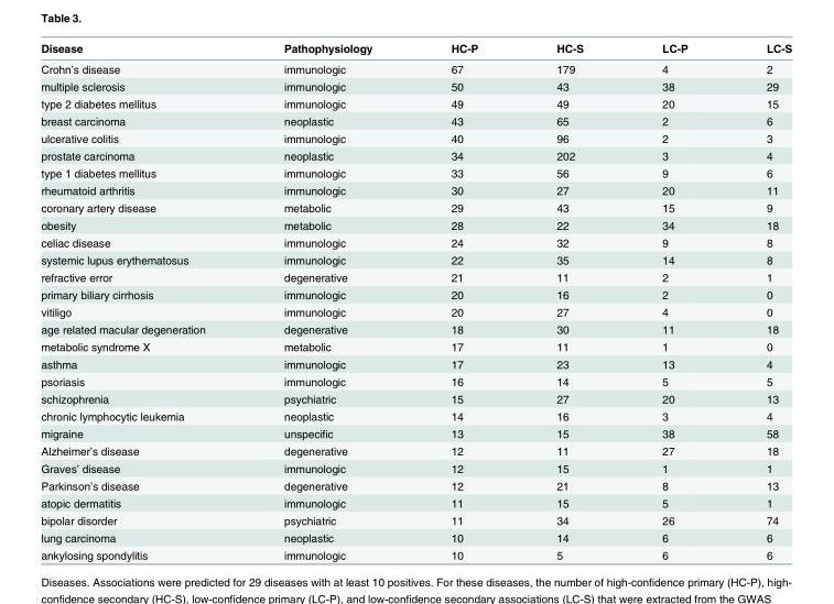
<table><thead><tr><td>Disease</td><td>Pathophysiology</td><td>HC-P</td><td>HC-S</td><td>LC-P</td><td>LC-S</td></tr></thead><tbody><tr><td>Crohn’s disease</td><td>immunologic</td><td>67</td><td>179</td><td>4</td><td>2</td></tr><tr><td>multiple sclerosis</td><td>immunologic</td><td>50</td><td>43</td><td>38</td><td>29</td></tr><tr><td>type 2 diabetes mellitus</td><td>immunologic</td><td>49</td><td>49</td><td>20</td><td>15</td></tr><tr><td>breast carcinoma</td><td>neoplastic</td><td>43</td><td>65</td><td>2</td><td>6</td></tr><tr><td>ulcerative colitis</td><td>immunologic</td><td>40</td><td>96</td><td>2</td><td>3</td></tr><tr><td>prostate carcinoma</td><td>neoplastic</td><td>34</td><td>202</td><td>3</td><td>4</td></tr><tr><td>type 1 diabetes mellitus</td><td>immunologic</td><td>33</td><td>56</td><td>9</td><td>6</td></tr><tr><td>rheumatoid arthritis</td><td>immunologic</td><td>30</td><td>27</td><td>20</td><td>11</td></tr><tr><td>coronary artery disease</td><td>metabolic</td><td>29</td><td>43</td><td>15</td><td>9</td></tr><tr><td>obesity</td><td>metabolic</td><td>28</td><td>22</td><td>34</td><td>18</td></tr><tr><td>celiac disease</td><td>immunologic</td><td>24</td><td>32</td><td>9</td><td>8</td></tr><tr><td>systemic lupus erythematosus</td><td>immunologic</td><td>22</td><td>35</td><td>14</td><td>8</td></tr><tr><td>refractive error</td><td>degenerative</td><td>21</td><td>11</td><td>2</td><td>1</td></tr><tr><td>primary biliary cirrhosis</td><td>immunologic</td><td>20</td><td>16</td><td>2</td><td>0</td></tr><tr><td>vitiligo</td><td>immunologic</td><td>20</td><td>27</td><td>4</td><td>0</td></tr><tr><td>age related macular degeneration</td><td>degenerative</td><td>18</td><td>30</td><td>11</td><td>18</td></tr><tr><td>metabolic syndrome X</td><td>metabolic</td><td>17</td><td>11</td><td>1</td><td>0</td></tr><tr><td>asthma</td><td>immunologic</td><td>17</td><td>23</td><td>13</td><td>4</td></tr><tr><td>psoriasis</td><td>immunologic</td><td>16</td><td>14</td><td>5</td><td>5</td></tr><tr><td>schizophrenia</td><td>psychiatric</td><td>15</td><td>27</td><td>20</td><td>13</td></tr><tr><td>chronic lymphocytic leukemia</td><td>neoplastic</td><td>14</td><td>16</td><td>3</td><td>4</td></tr><tr><td>migraine</td><td>unspecific</td><td>13</td><td>15</td><td>38</td><td>58</td></tr><tr><td>Alzheimer’s disease</td><td>degenerative</td><td>12</td><td>11</td><td>27</td><td>18</td></tr><tr><td>Graves’ disease</td><td>immunologic</td><td>12</td><td>15</td><td>1</td><td>1</td></tr><tr><td>Parkinson’s disease</td><td>degenerative</td><td>12</td><td>21</td><td>8</td><td>13</td></tr><tr><td>atopic dermatitis</td><td>immunologic</td><td>11</td><td>15</td><td>5</td><td>1</td></tr><tr><td>bipolar disorder</td><td>psychiatric</td><td>11</td><td>34</td><td>26</td><td>74</td></tr><tr><td>lung carcinoma</td><td>neoplastic</td><td>10</td><td>14</td><td>6</td><td>6</td></tr><tr><td>ankylosing spondylitis</td><td>immunologic</td><td>10</td><td>5</td><td>6</td><td>6</td></tr></tbody></table>